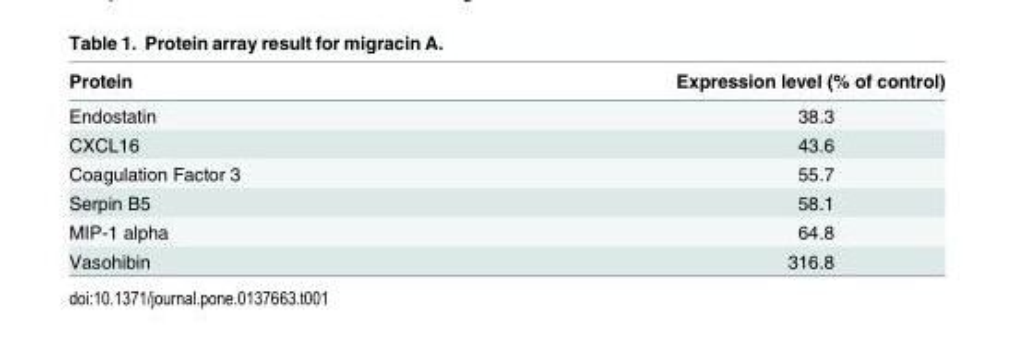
<table><thead><tr><td>Protein</td><td>Expression level (% of control)</td></tr></thead><tbody><tr><td>Endostatin</td><td>38.3</td></tr><tr><td>CXCL16</td><td>43.6</td></tr><tr><td>Coagulation Factor 3</td><td>55.7</td></tr><tr><td>Serpin B5</td><td>58.1</td></tr><tr><td>MIP-1 alpha</td><td>64.8</td></tr><tr><td>Vasohibin</td><td>316.8</td></tr></tbody></table>